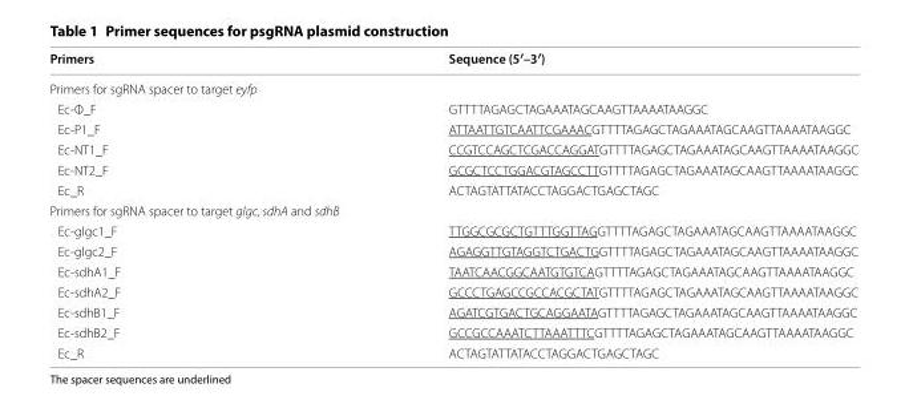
<table><thead><tr><td>Primers</td><td>Sequence (5′–3′)</td></tr></thead><tbody><tr><td colspan="2">Primers for sgRNA spacer to target eyfp</td></tr><tr><td>Ec‑Φ_F</td><td>GTTTTAGAGCTAGAAATAGCAAGTTAAAATAAGGC</td></tr><tr><td>Ec‑P1_F</td><td>ATTAATTGTCAATTCGAAACGTTTTAGAGCTAGAAATAGCAAGTTAAAATAAGGC</td></tr><tr><td>Ec‑NT1_F</td><td>CCGTCCAGCTCGACCAGGATGTTTTAGAGCTAGAAATAGCAAGTTAAAATAAGGC</td></tr><tr><td>Ec‑NT2_F</td><td>GCGCTCCTGGACGTAGCCTTGTTTTAGAGCTAGAAATAGCAAGTTAAAATAAGGC</td></tr><tr><td>Ec_R</td><td>ACTAGTATTATACCTAGGACTGAGCTAGC</td></tr><tr><td colspan="2">Primers for sgRNA spacer to target glgc, sdhA and sdhB</td></tr><tr><td>Ec‑glgc1_F</td><td>TTGGCGCGCTGTTTGGTTAGGTTTTAGAGCTAGAAATAGCAAGTTAAAATAAGGC</td></tr><tr><td>Ec‑glgc2_F</td><td>AGAGGTTGTAGGTCTGACTGGTTTTAGAGCTAGAAATAGCAAGTTAAAATAAGGC</td></tr><tr><td>Ec‑sdhA1_F</td><td>TAATCAACGGCAATGTGTCAGTTTTAGAGCTAGAAATAGCAAGTTAAAATAAGGC</td></tr><tr><td>Ec‑sdhA2_F</td><td>GCCCTGAGCCGCCACGCTATGTTTTAGAGCTAGAAATAGCAAGTTAAAATAAGGC</td></tr><tr><td>Ec‑sdhB1_F</td><td>AGATCGTGACTGCAGGAATAGTTTTAGAGCTAGAAATAGCAAGTTAAAATAAGGC</td></tr><tr><td>Ec‑sdhB2_F</td><td>GCCGCCAAATCTTAAATTTCGTTTTAGAGCTAGAAATAGCAAGTTAAAATAAGGC</td></tr><tr><td>Ec_R</td><td>ACTAGTATTATACCTAGGACTGAGCTAGC</td></tr></tbody></table>